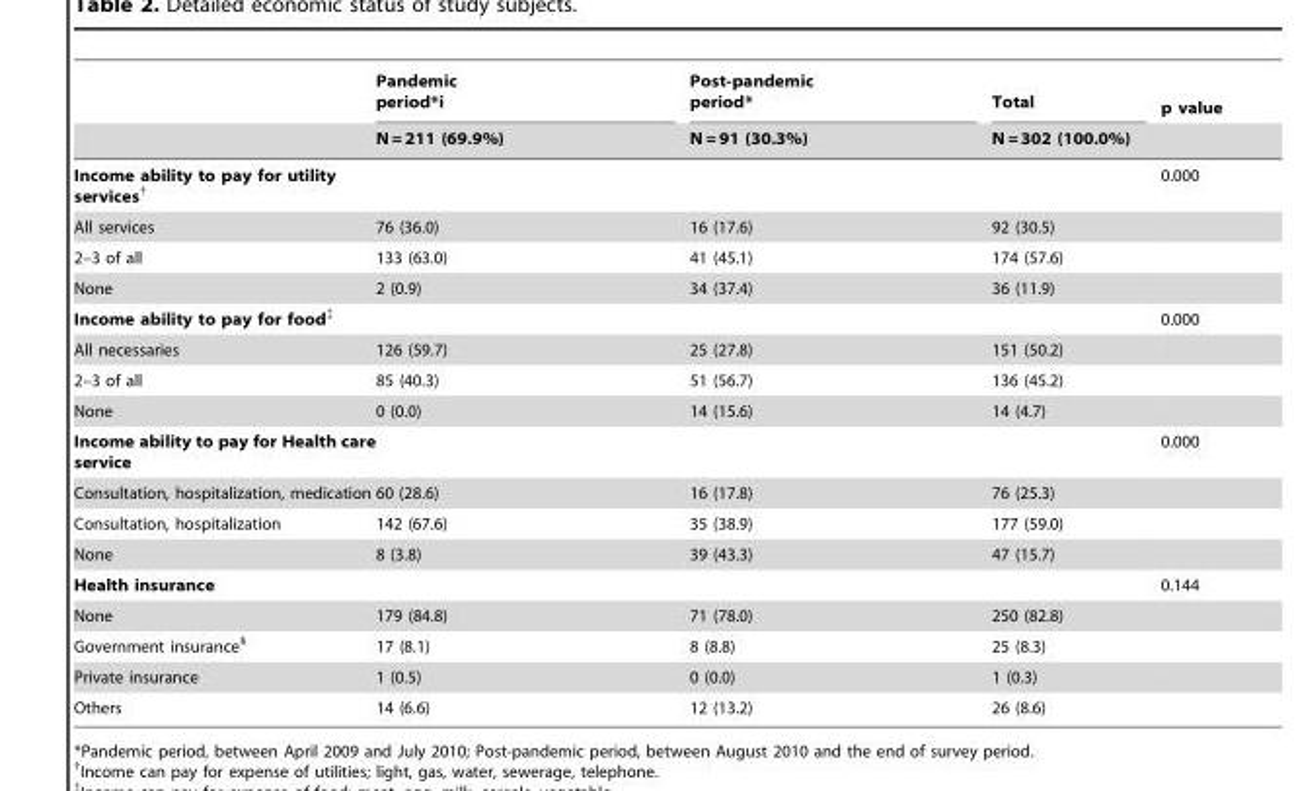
<table><thead><tr><td rowspan="2"></td><td rowspan="2">Pandemic period*i N = 211 (69.9%)</td><td rowspan="2">Post-pandemic period* N = 91 (30.3%)</td><td rowspan="2">Total N = 302 (100.0%)</td><td rowspan="2">p value</td></tr><tr></tr></thead><tbody><tr><td>Income ability to pay for utility services†</td><td></td><td></td><td></td><td>0.000</td></tr><tr><td>All services</td><td>76 (36.0)</td><td>16 (17.6)</td><td>92 (30.5)</td><td></td></tr><tr><td>2–3 of all</td><td>133 (63.0)</td><td>41 (45.1)</td><td>174 (57.6)</td><td></td></tr><tr><td>None</td><td>2 (0.9)</td><td>34 (37.4)</td><td>36 (11.9)</td><td></td></tr><tr><td>Income ability to pay for food‡</td><td></td><td></td><td></td><td>0.000</td></tr><tr><td>All necessaries</td><td>126 (59.7)</td><td>25 (27.8)</td><td>151 (50.2)</td><td></td></tr><tr><td>2–3 of all</td><td>85 (40.3)</td><td>51 (56.7)</td><td>136 (45.2)</td><td></td></tr><tr><td>None</td><td>0 (0.0)</td><td>14 (15.6)</td><td>14 (4.7)</td><td></td></tr><tr><td>Income ability to pay for Health care service</td><td></td><td></td><td></td><td>0.000</td></tr><tr><td>Consultation, hospitalization, medication</td><td>60 (28.6)</td><td>16 (17.8)</td><td>76 (25.3)</td><td></td></tr><tr><td>Consultation, hospitalization</td><td>142 (67.6)</td><td>35 (38.9)</td><td>177 (59.0)</td><td></td></tr><tr><td>None</td><td>8 (3.8)</td><td>39 (43.3)</td><td>47 (15.7)</td><td></td></tr><tr><td>Health insurance</td><td></td><td></td><td></td><td>0.144</td></tr><tr><td>None</td><td>179 (84.8)</td><td>71 (78.0)</td><td>250 (82.8)</td><td></td></tr><tr><td>Government insurance§</td><td>17 (8.1)</td><td>8 (8.8)</td><td>25 (8.3)</td><td></td></tr><tr><td>Private insurance</td><td>1 (0.5)</td><td>0 (0.0)</td><td>1 (0.3)</td><td></td></tr><tr><td>Others</td><td>14 (6.6)</td><td>12 (13.2)</td><td>26 (8.6)</td><td></td></tr></tbody></table>